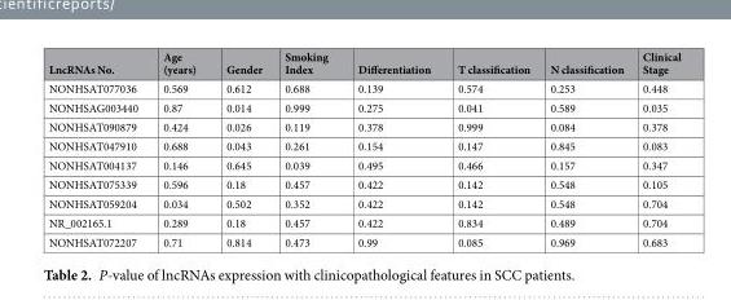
<table><thead><tr><td>LncRNAs No.</td><td>Age (years)</td><td>Gender</td><td>Smoking Index</td><td>Differentiation</td><td>T classification</td><td>N classification</td><td>Clinical Stage</td></tr></thead><tbody><tr><td>NONHSAT077036</td><td>0.569</td><td>0.612</td><td>0.688</td><td>0.139</td><td>0.574</td><td>0.253</td><td>0.448</td></tr><tr><td>NONHSAG003440</td><td>0.87</td><td>0.014</td><td>0.999</td><td>0.275</td><td>0.041</td><td>0.589</td><td>0.035</td></tr><tr><td>NONHSAT090879</td><td>0.424</td><td>0.026</td><td>0.119</td><td>0.378</td><td>0.999</td><td>0.084</td><td>0.378</td></tr><tr><td>NONHSAT047910</td><td>0.688</td><td>0.043</td><td>0.261</td><td>0.154</td><td>0.147</td><td>0.845</td><td>0.083</td></tr><tr><td>NONHSAT004137</td><td>0.146</td><td>0.645</td><td>0.039</td><td>0.495</td><td>0.466</td><td>0.157</td><td>0.347</td></tr><tr><td>NONHSAT075339</td><td>0.596</td><td>0.18</td><td>0.457</td><td>0.422</td><td>0.142</td><td>0.548</td><td>0.105</td></tr><tr><td>NONHSAT059204</td><td>0.034</td><td>0.502</td><td>0.352</td><td>0.422</td><td>0.142</td><td>0.548</td><td>0.704</td></tr><tr><td>NR_002165.1</td><td>0.289</td><td>0.18</td><td>0.457</td><td>0.422</td><td>0.834</td><td>0.489</td><td>0.704</td></tr><tr><td>NONHSAT072207</td><td>0.71</td><td>0.814</td><td>0.473</td><td>0.99</td><td>0.085</td><td>0.969</td><td>0.683</td></tr></tbody></table>